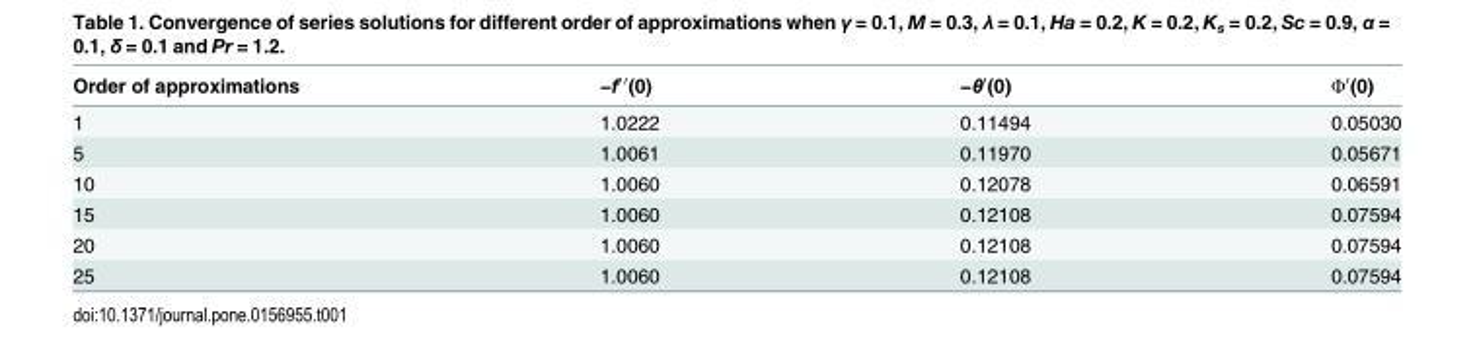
<table><thead><tr><td>Order of approximations</td><td>−f′′(0)</td><td>−θ′(0)</td><td>Φ′(0)</td></tr></thead><tbody><tr><td>1</td><td>1.0222</td><td>0.11494</td><td>0.05030</td></tr><tr><td>5</td><td>1.0061</td><td>0.11970</td><td>0.05671</td></tr><tr><td>10</td><td>1.0060</td><td>0.12078</td><td>0.06591</td></tr><tr><td>15</td><td>1.0060</td><td>0.12108</td><td>0.07594</td></tr><tr><td>20</td><td>1.0060</td><td>0.12108</td><td>0.07594</td></tr><tr><td>25</td><td>1.0060</td><td>0.12108</td><td>0.07594</td></tr></tbody></table>